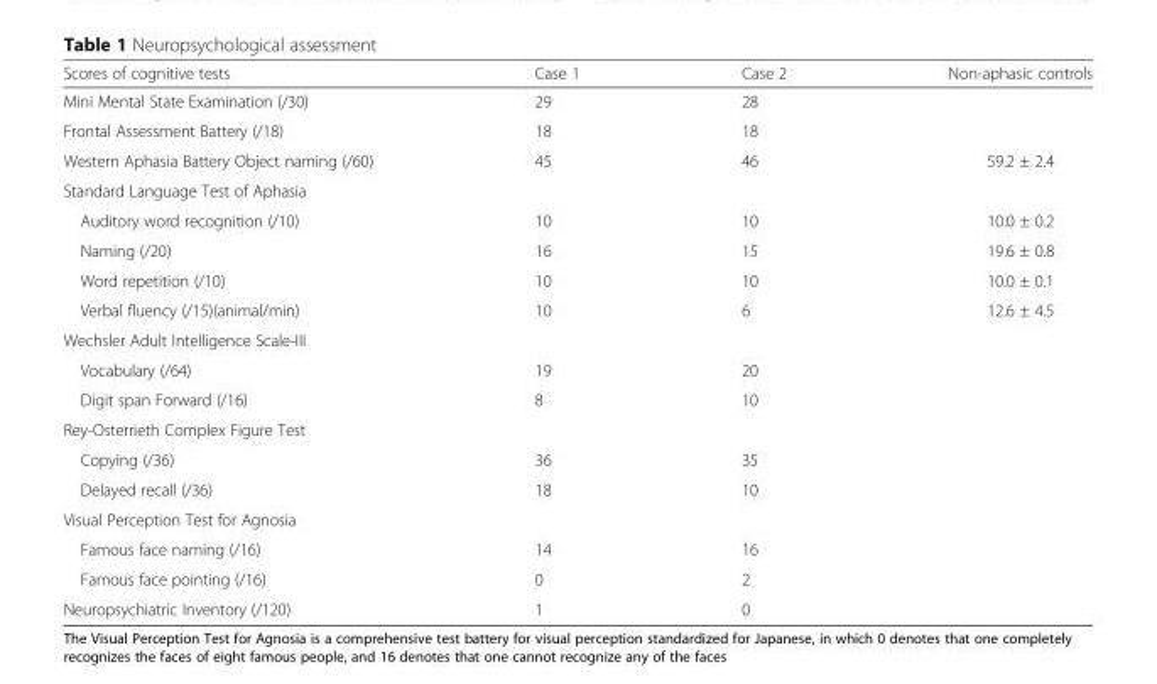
<table><thead><tr><td>Scores of cognitive tests</td><td>Case 1</td><td>Case 2</td><td>Non-aphasic controls</td></tr></thead><tbody><tr><td>Mini Mental State Examination (/30)</td><td>29</td><td>28</td><td></td></tr><tr><td>Frontal Assessment Battery (/18)</td><td>18</td><td>18</td><td></td></tr><tr><td>Western Aphasia Battery Object naming (/60)</td><td>45</td><td>46</td><td>59.2 ± 2.4</td></tr><tr><td colspan="4">Standard Language Test of Aphasia</td></tr><tr><td>Auditory word recognition (/10)</td><td>10</td><td>10</td><td>10.0 ± 0.2</td></tr><tr><td>Naming (/20)</td><td>16</td><td>15</td><td>19.6 ± 0.8</td></tr><tr><td>Word repetition (/10)</td><td>10</td><td>10</td><td>10.0 ± 0.1</td></tr><tr><td>Verbal fluency (/15)(animal/min)</td><td>10</td><td>6</td><td>12.6 ± 4.5</td></tr><tr><td colspan="4">Wechsler Adult Intelligence Scale-III</td></tr><tr><td>Vocabulary (/64)</td><td>19</td><td>20</td><td></td></tr><tr><td>Digit span Forward (/16)</td><td>8</td><td>10</td><td></td></tr><tr><td colspan="4">Rey-Osterrieth Complex Figure Test</td></tr><tr><td>Copying (/36)</td><td>36</td><td>35</td><td></td></tr><tr><td>Delayed recall (/36)</td><td>18</td><td>10</td><td></td></tr><tr><td colspan="4">Visual Perception Test for Agnosia</td></tr><tr><td>Famous face naming (/16)</td><td>14</td><td>16</td><td></td></tr><tr><td>Famous face pointing (/16)</td><td>0</td><td>2</td><td></td></tr><tr><td>Neuropsychiatric Inventory (/120)</td><td>1</td><td>0</td><td></td></tr></tbody></table>